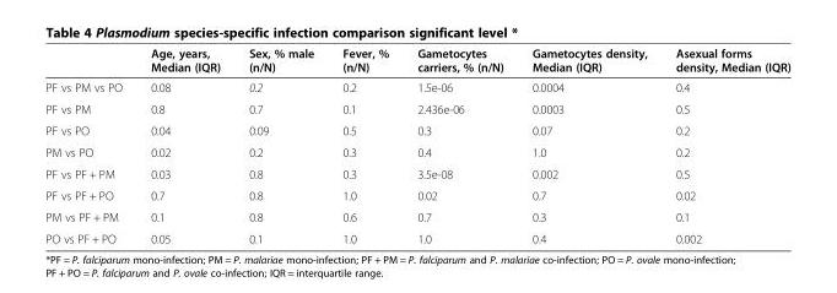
<table><thead><tr><td></td><td>Age, years, Median (IQR)</td><td>Sex, % male (n/N)</td><td>Fever, % (n/N)</td><td>Gametocytes carriers, % (n/N)</td><td>Gametocytes density, Median (IQR)</td><td>Asexual forms density, Median (IQR)</td></tr></thead><tbody><tr><td>PF vs PM vs PO</td><td>0.08</td><td>0.2</td><td>0.2</td><td>1.5e-06</td><td>0.0004</td><td>0.4</td></tr><tr><td>PF vs PM</td><td>0.8</td><td>0.7</td><td>0.1</td><td>2.436e-06</td><td>0.0003</td><td>0.5</td></tr><tr><td>PF vs PO</td><td>0.04</td><td>0.09</td><td>0.5</td><td>0.3</td><td>0.07</td><td>0.2</td></tr><tr><td>PM vs PO</td><td>0.02</td><td>0.2</td><td>0.3</td><td>0.4</td><td>1.0</td><td>0.2</td></tr><tr><td>PF vs PF + PM</td><td>0.03</td><td>0.8</td><td>0.3</td><td>3.5e-08</td><td>0.002</td><td>0.5</td></tr><tr><td>PF vs PF + PO</td><td>0.7</td><td>0.8</td><td>1.0</td><td>0.02</td><td>0.7</td><td>0.02</td></tr><tr><td>PM vs PF + PM</td><td>0.1</td><td>0.8</td><td>0.6</td><td>0.7</td><td>0.3</td><td>0.1</td></tr><tr><td>PO vs PF + PO</td><td>0.05</td><td>0.1</td><td>1.0</td><td>1.0</td><td>0.4</td><td>0.002</td></tr></tbody></table>